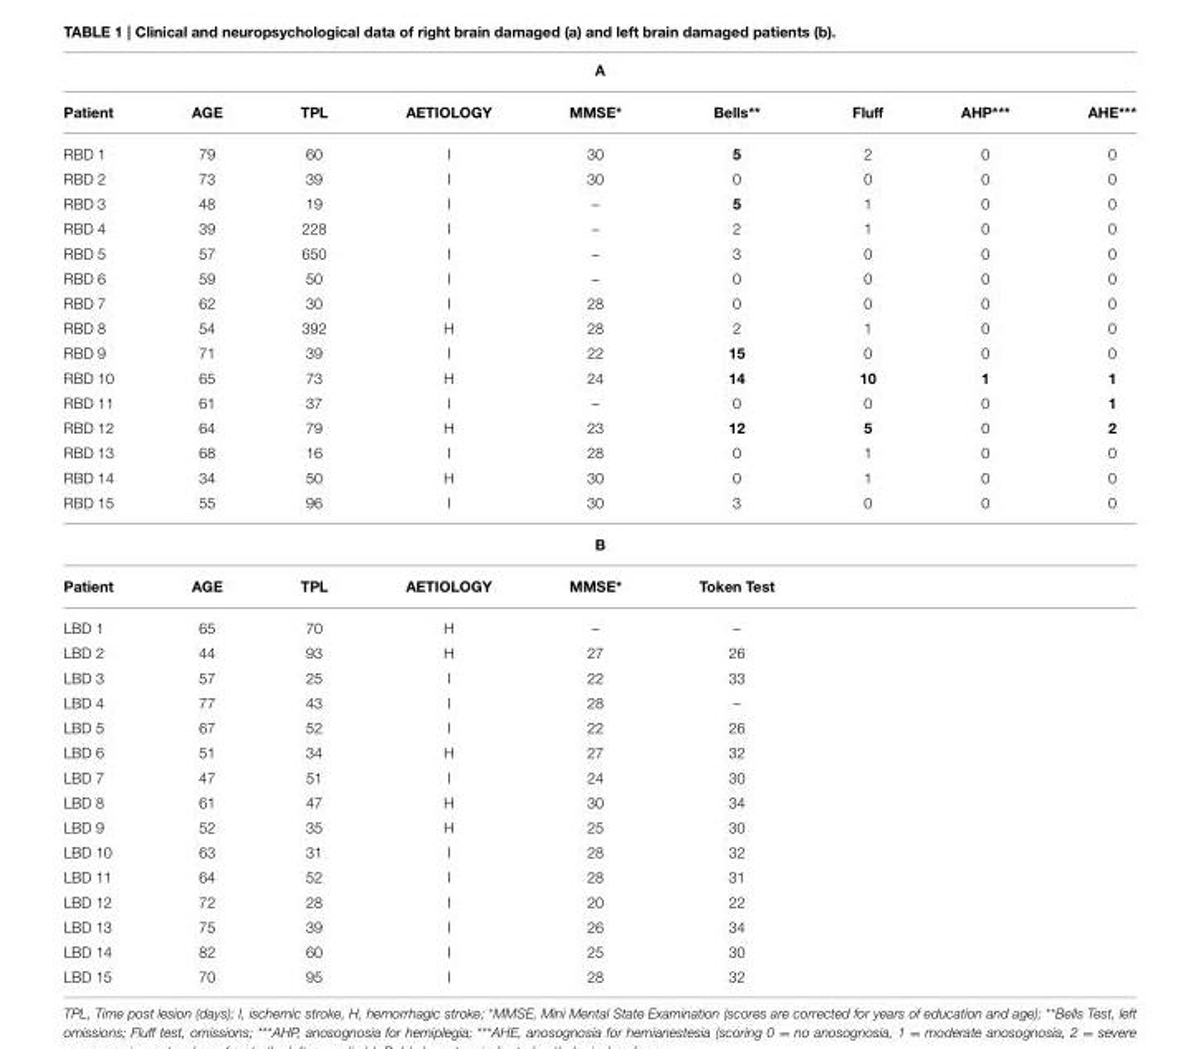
<table><thead><tr><td colspan="9">A</td></tr><tr><td>Patient</td><td>AGE</td><td>TPL</td><td>AETIOLOGY</td><td>MMSE*</td><td>Bells**</td><td>Fluff</td><td>AHP***</td><td>AHE***</td></tr></thead><tbody><tr><td>RBD 1</td><td>79</td><td>60</td><td>I</td><td>30</td><td>5</td><td>2</td><td>0</td><td>0</td></tr><tr><td>RBD 2</td><td>73</td><td>39</td><td>I</td><td>30</td><td>0</td><td>0</td><td>0</td><td>0</td></tr><tr><td>RBD 3</td><td>48</td><td>19</td><td>I</td><td>–</td><td>5</td><td>1</td><td>0</td><td>0</td></tr><tr><td>RBD 4</td><td>39</td><td>228</td><td>I</td><td>–</td><td>2</td><td>1</td><td>0</td><td>0</td></tr><tr><td>RBD 5</td><td>57</td><td>650</td><td>I</td><td>–</td><td>3</td><td>0</td><td>0</td><td>0</td></tr><tr><td>RBD 6</td><td>59</td><td>50</td><td>I</td><td>–</td><td>0</td><td>0</td><td>0</td><td>0</td></tr><tr><td>RBD 7</td><td>62</td><td>30</td><td>I</td><td>28</td><td>0</td><td>0</td><td>0</td><td>0</td></tr><tr><td>RBD 8</td><td>54</td><td>392</td><td>H</td><td>28</td><td>2</td><td>1</td><td>0</td><td>0</td></tr><tr><td>RBD 9</td><td>71</td><td>39</td><td>I</td><td>22</td><td>15</td><td>0</td><td>0</td><td>0</td></tr><tr><td>RBD 10</td><td>65</td><td>73</td><td>H</td><td>24</td><td>14</td><td>10</td><td>1</td><td>1</td></tr><tr><td>RBD 11</td><td>61</td><td>37</td><td>I</td><td>–</td><td>0</td><td>0</td><td>0</td><td>1</td></tr><tr><td>RBD 12</td><td>64</td><td>79</td><td>H</td><td>23</td><td>12</td><td>5</td><td>0</td><td>2</td></tr><tr><td>RBD 13</td><td>68</td><td>16</td><td>I</td><td>28</td><td>0</td><td>1</td><td>0</td><td>0</td></tr><tr><td>RBD 14</td><td>34</td><td>50</td><td>H</td><td>30</td><td>0</td><td>1</td><td>0</td><td>0</td></tr><tr><td>RBD 15</td><td>55</td><td>96</td><td>I</td><td>30</td><td>3</td><td>0</td><td>0</td><td>0</td></tr><tr><td colspan="9">B</td></tr><tr><td>Patient</td><td>AGE</td><td>TPL</td><td>AETIOLOGY</td><td>MMSE*</td><td>Token Test</td><td></td><td></td><td></td></tr><tr><td>LBD 1</td><td>65</td><td>70</td><td>H</td><td>–</td><td>–</td><td></td><td></td><td></td></tr><tr><td>LBD 2</td><td>44</td><td>93</td><td>H</td><td>27</td><td>26</td><td></td><td></td><td></td></tr><tr><td>LBD 3</td><td>57</td><td>25</td><td>I</td><td>22</td><td>33</td><td></td><td></td><td></td></tr><tr><td>LBD 4</td><td>77</td><td>43</td><td>I</td><td>28</td><td>–</td><td></td><td></td><td></td></tr><tr><td>LBD 5</td><td>67</td><td>52</td><td>I</td><td>22</td><td>26</td><td></td><td></td><td></td></tr><tr><td>LBD 6</td><td>51</td><td>34</td><td>H</td><td>27</td><td>32</td><td></td><td></td><td></td></tr><tr><td>LBD 7</td><td>47</td><td>51</td><td>I</td><td>24</td><td>30</td><td></td><td></td><td></td></tr><tr><td>LBD 8</td><td>61</td><td>47</td><td>H</td><td>30</td><td>34</td><td></td><td></td><td></td></tr><tr><td>LBD 9</td><td>52</td><td>35</td><td>H</td><td>25</td><td>30</td><td></td><td></td><td></td></tr><tr><td>LBD 10</td><td>63</td><td>31</td><td>I</td><td>28</td><td>32</td><td></td><td></td><td></td></tr><tr><td>LBD 11</td><td>64</td><td>52</td><td>I</td><td>28</td><td>31</td><td></td><td></td><td></td></tr><tr><td>LBD 12</td><td>72</td><td>28</td><td>I</td><td>20</td><td>22</td><td></td><td></td><td></td></tr><tr><td>LBD 13</td><td>75</td><td>39</td><td>I</td><td>26</td><td>34</td><td></td><td></td><td></td></tr><tr><td>LBD 14</td><td>82</td><td>60</td><td>I</td><td>25</td><td>30</td><td></td><td></td><td></td></tr><tr><td>LBD 15</td><td>70</td><td>95</td><td>I</td><td>28</td><td>32</td><td></td><td></td><td></td></tr></tbody></table>